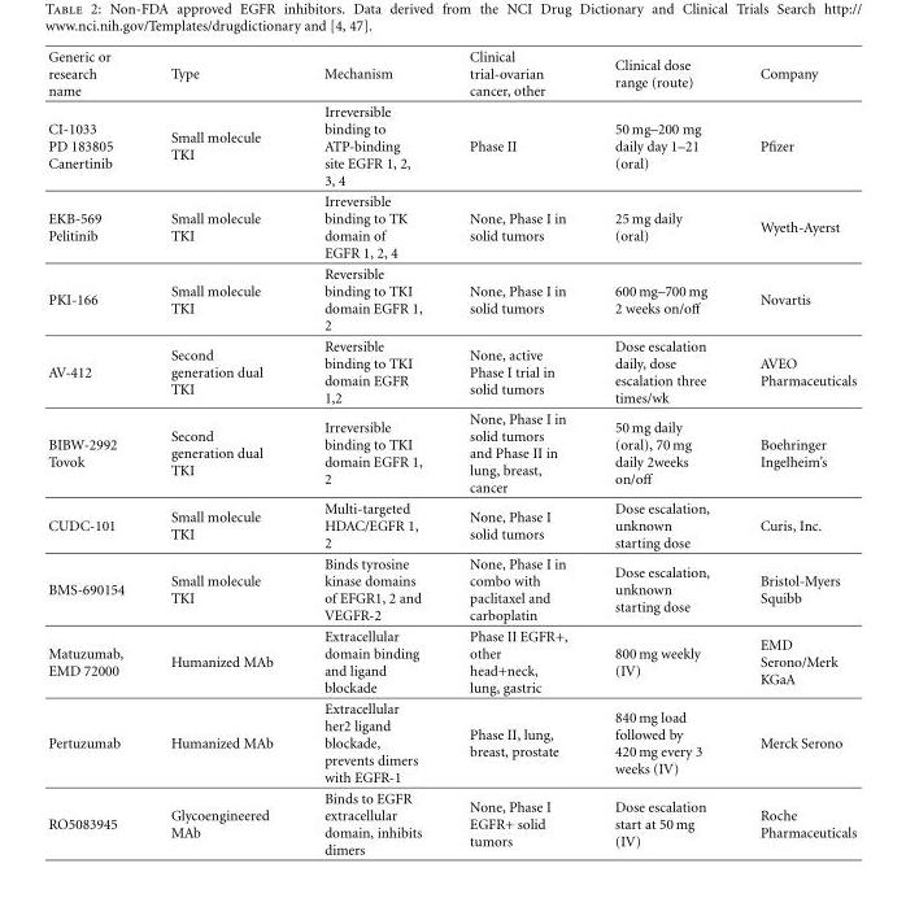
<table><thead><tr><td>Generic or research name</td><td>Type</td><td>Mechanism</td><td>Clinical trial-ovarian cancer, other</td><td>Clinical dose range (route)</td><td>Company</td></tr></thead><tbody><tr><td>CI-1033 PD 183805 Canertinib</td><td>Small molecule TKI</td><td>Irreversible binding to ATP-binding site EGFR 1, 2, 3, 4</td><td>Phase II</td><td>50 mg–200 mg daily day 1–21 (oral)</td><td>Pfizer</td></tr><tr><td>EKB-569 Pelitinib</td><td>Small molecule TKI</td><td>Irreversible binding to TK domain of EGFR 1, 2, 4</td><td>None, Phase I in solid tumors</td><td>25 mg daily (oral)</td><td>Wyeth-Ayerst</td></tr><tr><td>PKI-166</td><td>Small molecule TKI</td><td>Reversible binding to TKI domain EGFR 1, 2</td><td>None, Phase I in solid tumors</td><td>600 mg–700 mg 2 weeks on/off</td><td>Novartis</td></tr><tr><td>AV-412</td><td>Second generation dual TKI</td><td>Reversible binding to TKI domain EGFR 1,2</td><td>None, active Phase I trial in solid tumors</td><td>Dose escalation daily, dose escalation three times/wk</td><td>AVEO Pharmaceuticals</td></tr><tr><td>BIBW-2992 Tovok</td><td>Second generation dual TKI</td><td>Irreversible binding to TKI domain EGFR 1, 2</td><td>None, Phase I in solid tumors and Phase II in lung, breast, cancer</td><td>50 mg daily (oral), 70 mg daily 2weeks on/off</td><td>Boehringer Ingelheim’s</td></tr><tr><td>CUDC-101</td><td>Small molecule TKI</td><td>Multi-targeted HDAC/EGFR 1, 2</td><td>None, Phase I solid tumors</td><td>Dose escalation, unknown starting dose</td><td>Curis, Inc.</td></tr><tr><td>BMS-690154</td><td>Small molecule TKI</td><td>Binds tyrosine kinase domains of EFGR1, 2 and VEGFR-2</td><td>None, Phase I in combo with paclitaxel and carboplatin</td><td>Dose escalation, unknown starting dose</td><td>Bristol-Myers Squibb</td></tr><tr><td>Matuzumab, EMD 72000</td><td>Humanized MAb</td><td>Extracellular domain binding and ligand blockade</td><td>Phase II EGFR+, other head+neck, lung, gastric</td><td>800 mg weekly (IV)</td><td>EMD Serono/Merk KGaA</td></tr><tr><td>Pertuzumab</td><td>Humanized MAb</td><td>Extracellular her2 ligand blockade, prevents dimers with EGFR-1</td><td>Phase II, lung, breast, prostate</td><td>840 mg load followed by 420 mg every 3 weeks (IV)</td><td>Merck Serono</td></tr><tr><td>RO5083945</td><td>Glycoengineered MAb</td><td>Binds to EGFR extracellular domain, inhibits dimers</td><td>None, Phase I EGFR+ solid tumors</td><td>Dose escalation start at 50 mg (IV)</td><td>Roche Pharmaceuticals</td></tr></tbody></table>